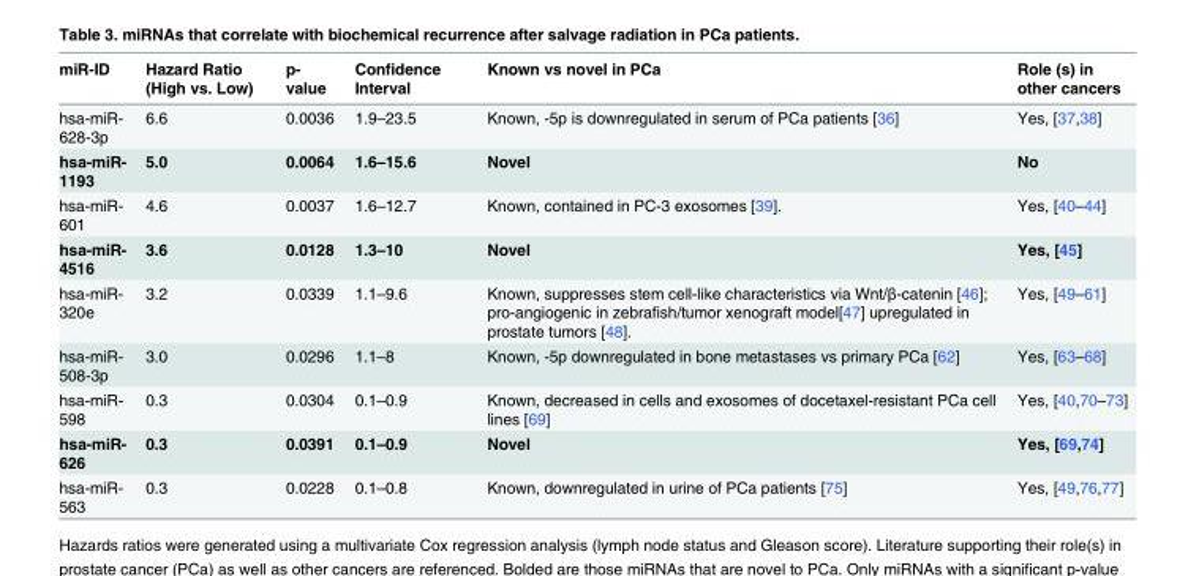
<table><thead><tr><td>miR-ID</td><td>Hazard Ratio (High vs. Low)</td><td>p- value</td><td>Confidence Interval</td><td>Known vs novel in PCa</td><td>Role (s) in other cancers</td></tr></thead><tbody><tr><td>hsa-miR- 628-3p</td><td>6.6</td><td>0.0036</td><td>1.9–23.5</td><td>Known, -5p is downregulated in serum of PCa patients [36]</td><td>Yes, [37,38]</td></tr><tr><td>hsa-miR- 1193</td><td>5.0</td><td>0.0064</td><td>1.6–15.6</td><td>Novel</td><td>No</td></tr><tr><td>hsa-miR- 601</td><td>4.6</td><td>0.0037</td><td>1.6–12.7</td><td>Known, contained in PC-3 exosomes [39].</td><td>Yes, [40–44]</td></tr><tr><td>hsa-miR- 4516</td><td>3.6</td><td>0.0128</td><td>1.3–10</td><td>Novel</td><td>Yes, [45]</td></tr><tr><td>hsa-miR- 320e</td><td>3.2</td><td>0.0339</td><td>1.1–9.6</td><td>Known, suppresses stem cell-like characteristics via Wnt/β-catenin [46]; pro-angiogenic in zebrafish/tumor xenograft model[47] upregulated in prostate tumors [48].</td><td>Yes, [49–61]</td></tr><tr><td>hsa-miR- 508-3p</td><td>3.0</td><td>0.0296</td><td>1.1–8</td><td>Known, -5p downregulated in bone metastases vs primary PCa [62]</td><td>Yes, [63–68]</td></tr><tr><td>hsa-miR- 598</td><td>0.3</td><td>0.0304</td><td>0.1–0.9</td><td>Known, decreased in cells and exosomes of docetaxel-resistant PCa cell lines [69]</td><td>Yes, [40,70–73]</td></tr><tr><td>hsa-miR- 626</td><td>0.3</td><td>0.0391</td><td>0.1–0.9</td><td>Novel</td><td>Yes, [69,74]</td></tr><tr><td>hsa-miR- 563</td><td>0.3</td><td>0.0228</td><td>0.1–0.8</td><td>Known, downregulated in urine of PCa patients [75]</td><td>Yes, [49,76,77]</td></tr></tbody></table>